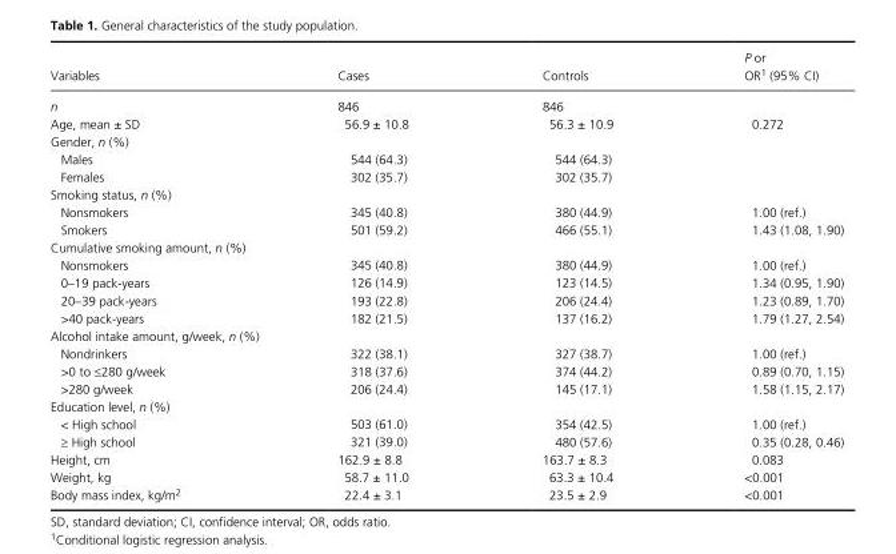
<table><thead><tr><td>Variables</td><td>Cases</td><td>Controls</td><td>P or OR1 (95% CI)</td></tr></thead><tbody><tr><td>n</td><td>846</td><td>846</td><td></td></tr><tr><td>Age, mean ± SD</td><td>56.9 ± 10.8</td><td>56.3 ± 10.9</td><td>0.272</td></tr><tr><td colspan="4">Gender, n (%)</td></tr><tr><td>Males</td><td>544 (64.3)</td><td>544 (64.3)</td><td></td></tr><tr><td>Females</td><td>302 (35.7)</td><td>302 (35.7)</td><td></td></tr><tr><td colspan="4">Smoking status, n (%)</td></tr><tr><td>Nonsmokers</td><td>345 (40.8)</td><td>380 (44.9)</td><td>1.00 (ref.)</td></tr><tr><td>Smokers</td><td>501 (59.2)</td><td>466 (55.1)</td><td>1.43 (1.08, 1.90)</td></tr><tr><td colspan="4">Cumulative smoking amount, n (%)</td></tr><tr><td>Nonsmokers</td><td>345 (40.8)</td><td>380 (44.9)</td><td>1.00 (ref.)</td></tr><tr><td>0–19 pack- years</td><td>126 (14.9)</td><td>123 (14.5)</td><td>1.34 (0.95, 1.90)</td></tr><tr><td>20–39 pack- years</td><td>193 (22.8)</td><td>206 (24.4)</td><td>1.23 (0.89, 1.70)</td></tr><tr><td>&gt;40 pack- years</td><td>182 (21.5)</td><td>137 (16.2)</td><td>1.79 (1.27, 2.54)</td></tr><tr><td colspan="4">Alcohol intake amount, g/week, n (%)</td></tr><tr><td>Nondrinkers</td><td>322 (38.1)</td><td>327 (38.7)</td><td>1.00 (ref.)</td></tr><tr><td>&gt;0 to ≤280 g/week</td><td>318 (37.6)</td><td>374 (44.2)</td><td>0.89 (0.70, 1.15)</td></tr><tr><td>&gt;280 g/week</td><td>206 (24.4)</td><td>145 (17.1)</td><td>1.58 (1.15, 2.17)</td></tr><tr><td colspan="4">Education level, n (%)</td></tr><tr><td>&lt; High school</td><td>503 (61.0)</td><td>354 (42.5)</td><td>1.00 (ref.)</td></tr><tr><td>≥ High school</td><td>321 (39.0)</td><td>480 (57.6)</td><td>0.35 (0.28, 0.46)</td></tr><tr><td>Height, cm</td><td>162.9 ± 8.8</td><td>163.7 ± 8.3</td><td>0.083</td></tr><tr><td>Weight, kg</td><td>58.7 ± 11.0</td><td>63.3 ± 10.4</td><td>&lt;0.001</td></tr><tr><td>Body mass index, kg/m<sup>2</sup></td><td>22.4 ± 3.1</td><td>23.5 ± 2.9</td><td>&lt;0.001</td></tr></tbody></table>